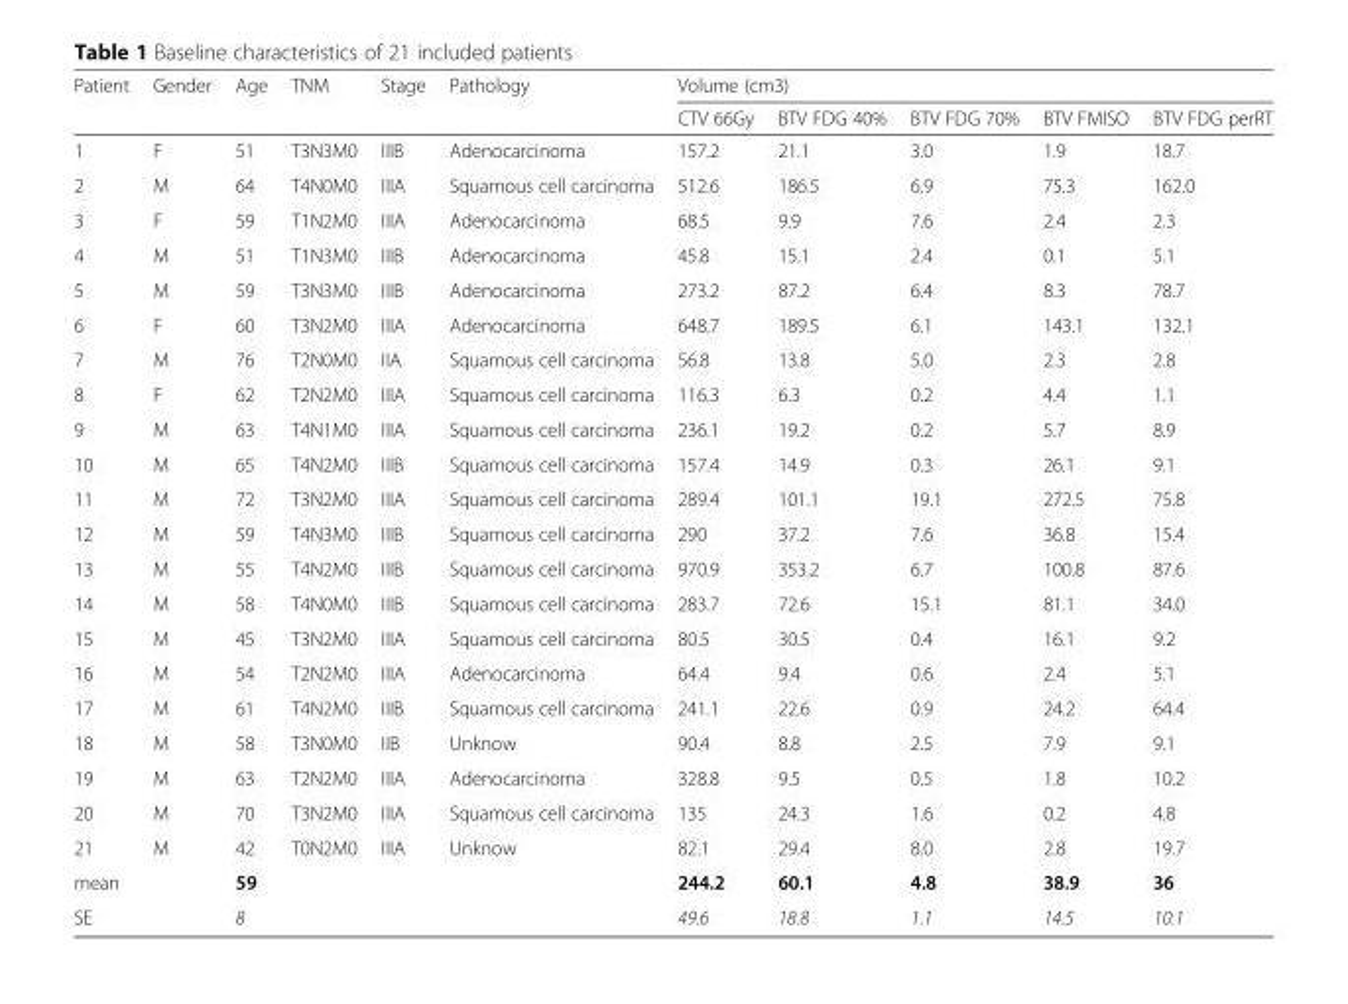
<table><thead><tr><td rowspan="2">Patient</td><td rowspan="2">Gender</td><td rowspan="2">Age</td><td rowspan="2">TNM</td><td rowspan="2">Stage</td><td rowspan="2">Pathology</td><td colspan="5">Volume (cm3)</td></tr><tr><td>CTV 66Gy</td><td>BTV FDG 40%</td><td>BTV FDG 70%</td><td>BTV FMISO</td><td>BTV FDG perRT</td></tr></thead><tbody><tr><td>1</td><td>F</td><td>51</td><td>T3N3M0</td><td>IIIB</td><td>Adenocarcinoma</td><td>157.2</td><td>21.1</td><td>3.0</td><td>1.9</td><td>18.7</td></tr><tr><td>2</td><td>M</td><td>64</td><td>T4N0M0</td><td>IIIA</td><td>Squamous cell carcinoma</td><td>512.6</td><td>186.5</td><td>6.9</td><td>75.3</td><td>162.0</td></tr><tr><td>3</td><td>F</td><td>59</td><td>T1N2M0</td><td>IIIA</td><td>Adenocarcinoma</td><td>68.5</td><td>9.9</td><td>7.6</td><td>2.4</td><td>2.3</td></tr><tr><td>4</td><td>M</td><td>51</td><td>T1N3M0</td><td>IIIB</td><td>Adenocarcinoma</td><td>45.8</td><td>15.1</td><td>2.4</td><td>0.1</td><td>5.1</td></tr><tr><td>5</td><td>M</td><td>59</td><td>T3N3M0</td><td>IIIB</td><td>Adenocarcinoma</td><td>273.2</td><td>87.2</td><td>6.4</td><td>8.3</td><td>78.7</td></tr><tr><td>6</td><td>F</td><td>60</td><td>T3N2M0</td><td>IIIA</td><td>Adenocarcinoma</td><td>648.7</td><td>189.5</td><td>6.1</td><td>143.1</td><td>132.1</td></tr><tr><td>7</td><td>M</td><td>76</td><td>T2N0M0</td><td>IIA</td><td>Squamous cell carcinoma</td><td>56.8</td><td>13.8</td><td>5.0</td><td>2.3</td><td>2.8</td></tr><tr><td>8</td><td>F</td><td>62</td><td>T2N2M0</td><td>IIIA</td><td>Squamous cell carcinoma</td><td>116.3</td><td>6.3</td><td>0.2</td><td>4.4</td><td>1.1</td></tr><tr><td>9</td><td>M</td><td>63</td><td>T4N1M0</td><td>IIIA</td><td>Squamous cell carcinoma</td><td>236.1</td><td>19.2</td><td>0.2</td><td>5.7</td><td>8.9</td></tr><tr><td>10</td><td>M</td><td>65</td><td>T4N2M0</td><td>IIIB</td><td>Squamous cell carcinoma</td><td>157.4</td><td>14.9</td><td>0.3</td><td>26.1</td><td>9.1</td></tr><tr><td>11</td><td>M</td><td>72</td><td>T3N2M0</td><td>IIIA</td><td>Squamous cell carcinoma</td><td>289.4</td><td>101.1</td><td>19.1</td><td>272.5</td><td>75.8</td></tr><tr><td>12</td><td>M</td><td>59</td><td>T4N3M0</td><td>IIIB</td><td>Squamous cell carcinoma</td><td>290</td><td>37.2</td><td>7.6</td><td>36.8</td><td>15.4</td></tr><tr><td>13</td><td>M</td><td>55</td><td>T4N2M0</td><td>IIIB</td><td>Squamous cell carcinoma</td><td>970.9</td><td>353.2</td><td>6.7</td><td>100.8</td><td>87.6</td></tr><tr><td>14</td><td>M</td><td>58</td><td>T4N0M0</td><td>IIIB</td><td>Squamous cell carcinoma</td><td>283.7</td><td>72.6</td><td>15.1</td><td>81.1</td><td>34.0</td></tr><tr><td>15</td><td>M</td><td>45</td><td>T3N2M0</td><td>IIIA</td><td>Squamous cell carcinoma</td><td>80.5</td><td>30.5</td><td>0.4</td><td>16.1</td><td>9.2</td></tr><tr><td>16</td><td>M</td><td>54</td><td>T2N2M0</td><td>IIIA</td><td>Adenocarcinoma</td><td>64.4</td><td>9.4</td><td>0.6</td><td>2.4</td><td>5.1</td></tr><tr><td>17</td><td>M</td><td>61</td><td>T4N2M0</td><td>IIIB</td><td>Squamous cell carcinoma</td><td>241.1</td><td>22.6</td><td>0.9</td><td>24.2</td><td>64.4</td></tr><tr><td>18</td><td>M</td><td>58</td><td>T3N0M0</td><td>IIB</td><td>Unknow</td><td>90.4</td><td>8.8</td><td>2.5</td><td>7.9</td><td>9.1</td></tr><tr><td>19</td><td>M</td><td>63</td><td>T2N2M0</td><td>IIIA</td><td>Adenocarcinoma</td><td>328.8</td><td>9.5</td><td>0.5</td><td>1.8</td><td>10.2</td></tr><tr><td>20</td><td>M</td><td>70</td><td>T3N2M0</td><td>IIIA</td><td>Squamous cell carcinoma</td><td>135</td><td>24.3</td><td>1.6</td><td>0.2</td><td>4.8</td></tr><tr><td>21</td><td>M</td><td>42</td><td>T0N2M0</td><td>IIIA</td><td>Unknow</td><td>82.1</td><td>29.4</td><td>8.0</td><td>2.8</td><td>19.7</td></tr><tr><td>mean</td><td></td><td>59</td><td></td><td></td><td></td><td>244.2</td><td>60.1</td><td>4.8</td><td>38.9</td><td>36</td></tr><tr><td>SE</td><td></td><td>8</td><td></td><td></td><td></td><td>49.6</td><td>18.8</td><td>1.1</td><td>14.5</td><td>10.1</td></tr></tbody></table>